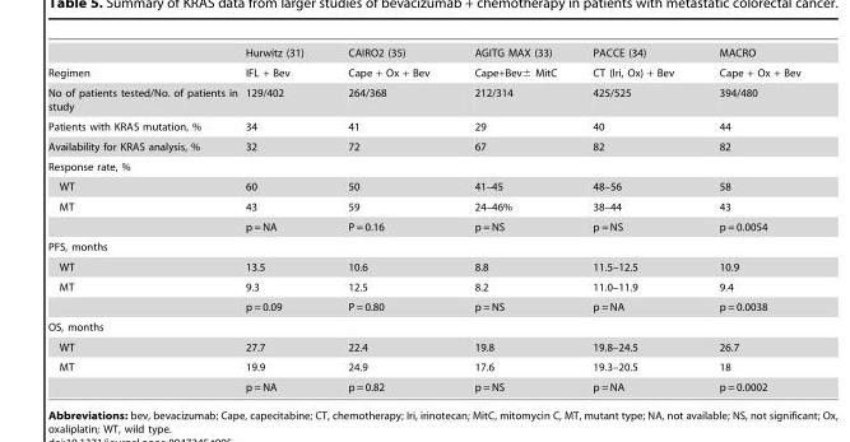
<table><thead><tr><td></td><td>Hurwitz (31)</td><td>CAIRO2 (35)</td><td>AGITG MAX (33)</td><td>PACCE (34)</td><td>MACRO</td></tr></thead><tbody><tr><td>Regimen</td><td>IFL + Bev</td><td>Cape + Ox + Bev</td><td>Cape+Bev± MitC</td><td>CT (Iri, Ox) + Bev</td><td>Cape + Ox + Bev</td></tr><tr><td>No of patients tested/No. of patients in study</td><td>129/402</td><td>264/368</td><td>212/314</td><td>425/525</td><td>394/480</td></tr><tr><td>Patients with KRAS mutation, %</td><td>34</td><td>41</td><td>29</td><td>40</td><td>44</td></tr><tr><td>Availability for KRAS analysis, %</td><td>32</td><td>72</td><td>67</td><td>82</td><td>82</td></tr><tr><td colspan="6">Response rate, %</td></tr><tr><td>WT</td><td>60</td><td>50</td><td>41–45</td><td>48–56</td><td>58</td></tr><tr><td rowspan="2">MT</td><td>43</td><td>59</td><td>24–46%</td><td>38–44</td><td>43</td></tr><tr><td>p = NA</td><td>P = 0.16</td><td>p = NS</td><td>p = NS</td><td>p = 0.0054</td></tr><tr><td colspan="6">PFS, months</td></tr><tr><td>WT</td><td>13.5</td><td>10.6</td><td>8.8</td><td>11.5–12.5</td><td>10.9</td></tr><tr><td rowspan="2">MT</td><td>9.3</td><td>12.5</td><td>8.2</td><td>11.0–11.9</td><td>9.4</td></tr><tr><td>p = 0.09</td><td>P = 0.80</td><td>p = NS</td><td>p = NA</td><td>p = 0.0038</td></tr><tr><td colspan="6">OS, months</td></tr><tr><td>WT</td><td>27.7</td><td>22.4</td><td>19.8</td><td>19.8–24.5</td><td>26.7</td></tr><tr><td rowspan="2">MT</td><td>19.9</td><td>24.9</td><td>17.6</td><td>19.3–20.5</td><td>18</td></tr><tr><td>p = NA</td><td>p = 0.82</td><td>p = NS</td><td>p = NA</td><td>p = 0.0002</td></tr></tbody></table>